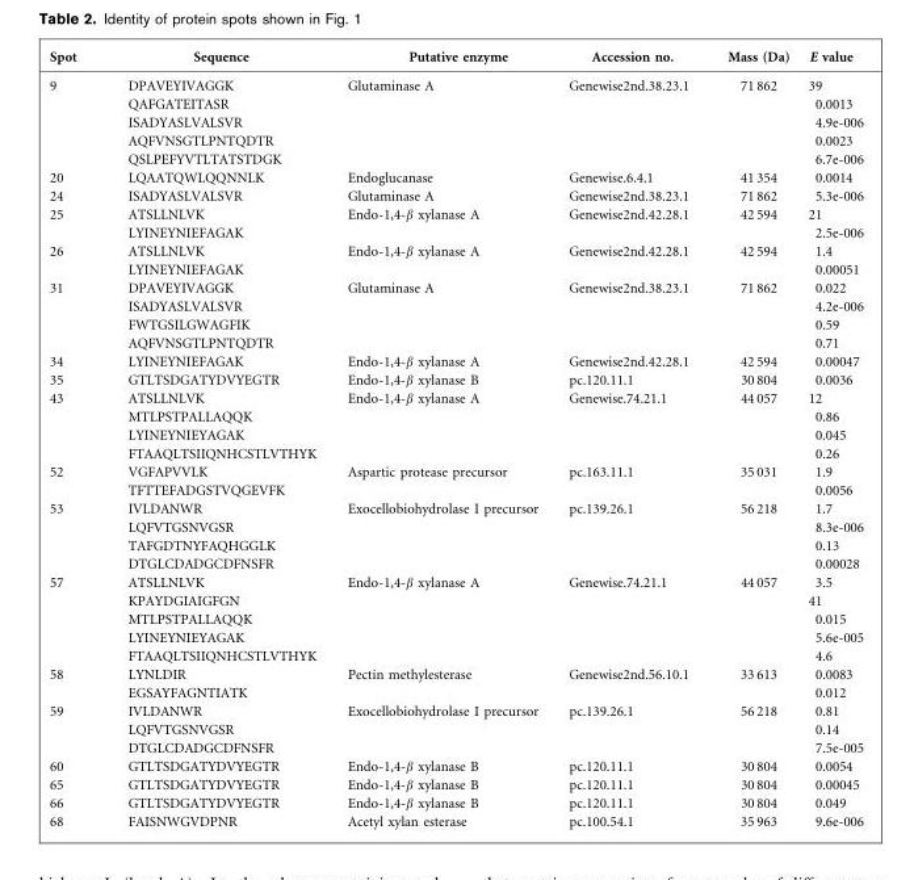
<table><thead><tr><td>Spot</td><td>Sequence</td><td>Putative enzyme</td><td>Accession no.</td><td>Mass (Da)</td><td>E value</td></tr></thead><tbody><tr><td rowspan="5">9</td><td>DPAVEYIVAGGK</td><td>Glutaminase A</td><td>Genewise2nd.38.23.1</td><td>71 862</td><td>39</td></tr><tr><td>QAFGATEITASR</td><td></td><td></td><td></td><td>0.0013</td></tr><tr><td>ISADYASLVALSVR</td><td></td><td></td><td></td><td>4.9e-006</td></tr><tr><td>AQFVNSGTLPNTQDTR</td><td></td><td></td><td></td><td>0.0023</td></tr><tr><td>QSLPEFYVTLTATSTDGK</td><td></td><td></td><td></td><td>6.7e-006</td></tr><tr><td>20</td><td>LQAATQWLQQNNLK</td><td>Endoglucanase</td><td>Genewise.6.4.1</td><td>41 354</td><td>0.0014</td></tr><tr><td>24</td><td>ISADYASLVALSVR</td><td>Glutaminase A</td><td>Genewise2nd.38.23.1</td><td>71 862</td><td>5.3e-006</td></tr><tr><td rowspan="2">25</td><td>ATSLLNLVK</td><td>Endo-1,4-β xylanase A</td><td>Genewise2nd.42.28.1</td><td>42 594</td><td>21</td></tr><tr><td>LYINEYNIEFAGAK</td><td></td><td></td><td></td><td>2.5e-006</td></tr><tr><td rowspan="2">26</td><td>ATSLLNLVK</td><td>Endo-1,4-β xylanase A</td><td>Genewise2nd.42.28.1</td><td>42 594</td><td>1.4</td></tr><tr><td>LYINEYNIEFAGAK</td><td></td><td></td><td></td><td>0.00051</td></tr><tr><td rowspan="4">31</td><td>DPAVEYIVAGGK</td><td>Glutaminase A</td><td>Genewise2nd.38.23.1</td><td>71 862</td><td>0.022</td></tr><tr><td>ISADYASLVALSVR</td><td></td><td></td><td></td><td>4.2e-006</td></tr><tr><td>FWTGSILGWAGFIK</td><td></td><td></td><td></td><td>0.59</td></tr><tr><td>AQFVNSGTLPNTQDTR</td><td></td><td></td><td></td><td>0.71</td></tr><tr><td>34</td><td>LYINEYNIEFAGAK</td><td>Endo-1,4-β xylanase A</td><td>Genewise2nd.42.28.1</td><td>42 594</td><td>0.00047</td></tr><tr><td>35</td><td>GTLTSDGATYDVYEGTR</td><td>Endo-1,4-β xylanase B</td><td>pc.120.11.1</td><td>30 804</td><td>0.0036</td></tr><tr><td rowspan="4">43</td><td>ATSLLNLVK</td><td>Endo-1,4-β xylanase A</td><td>Genewise.74.21.1</td><td>44 057</td><td>12</td></tr><tr><td>MTLPSTPALLAQQK</td><td></td><td></td><td></td><td>0.86</td></tr><tr><td>LYINEYNIEYAGAK</td><td></td><td></td><td></td><td>0.045</td></tr><tr><td>FTAAQLTSIIQNHCSTLVTHYK</td><td></td><td></td><td></td><td>0.26</td></tr><tr><td rowspan="2">52</td><td>VGFAPVVLK</td><td>Aspartic protease precursor</td><td>pc.163.11.1</td><td>35 031</td><td>1.9</td></tr><tr><td>TFTTEFADGSTVQGEVFK</td><td></td><td></td><td></td><td>0.0056</td></tr><tr><td rowspan="4">53</td><td>IVLDANWR</td><td>Exocellobiohydrolase I precursor</td><td>pc.139.26.1</td><td>56 218</td><td>1.7</td></tr><tr><td>LQFVTGSNVGSR</td><td></td><td></td><td></td><td>8.3e-006</td></tr><tr><td>TAFGDTNYFAQHGGLK</td><td></td><td></td><td></td><td>0.13</td></tr><tr><td>DTGLCDADGCDFNSFR</td><td></td><td></td><td></td><td>0.00028</td></tr><tr><td rowspan="5">57</td><td>ATSLLNLVK</td><td>Endo-1,4-β xylanase A</td><td>Genewise.74.21.1</td><td>44 057</td><td>3.5</td></tr><tr><td>KPAYDGIAIGFGN</td><td></td><td></td><td></td><td>41</td></tr><tr><td>MTLPSTPALLAQQK</td><td></td><td></td><td></td><td>0.015</td></tr><tr><td>LYINEYNIEYAGAK</td><td></td><td></td><td></td><td>5.6e-005</td></tr><tr><td>FTAAQLTSIIQNHCSTLVTHYK</td><td></td><td></td><td></td><td>4.6</td></tr><tr><td rowspan="2">58</td><td>LYNLDIR</td><td>Pectin methylesterase</td><td>Genewise2nd.56.10.1</td><td>33 613</td><td>0.0083</td></tr><tr><td>EGSAYFAGNTIATK</td><td></td><td></td><td></td><td>0.012</td></tr><tr><td rowspan="3">59</td><td>IVLDANWR</td><td>Exocellobiohydrolase I precursor</td><td>pc.139.26.1</td><td>56 218</td><td>0.81</td></tr><tr><td>LQFVTGSNVGSR</td><td></td><td></td><td></td><td>0.14</td></tr><tr><td>DTGLCDADGCDFNSFR</td><td></td><td></td><td></td><td>7.5e-005</td></tr><tr><td>60</td><td>GTLTSDGATYDVYEGTR</td><td>Endo-1,4-β xylanase B</td><td>pc.120.11.1</td><td>30 804</td><td>0.0054</td></tr><tr><td>65</td><td>GTLTSDGATYDVYEGTR</td><td>Endo-1,4-β xylanase B</td><td>pc.120.11.1</td><td>30 804</td><td>0.00045</td></tr><tr><td>66</td><td>GTLTSDGATYDVYEGTR</td><td>Endo-1,4-β xylanase B</td><td>pc.120.11.1</td><td>30 804</td><td>0.049</td></tr><tr><td>68</td><td>FAISNWGVDPNR</td><td>Acetyl xylan esterase</td><td>pc.100.54.1</td><td>35 963</td><td>9.6e-006</td></tr></tbody></table>